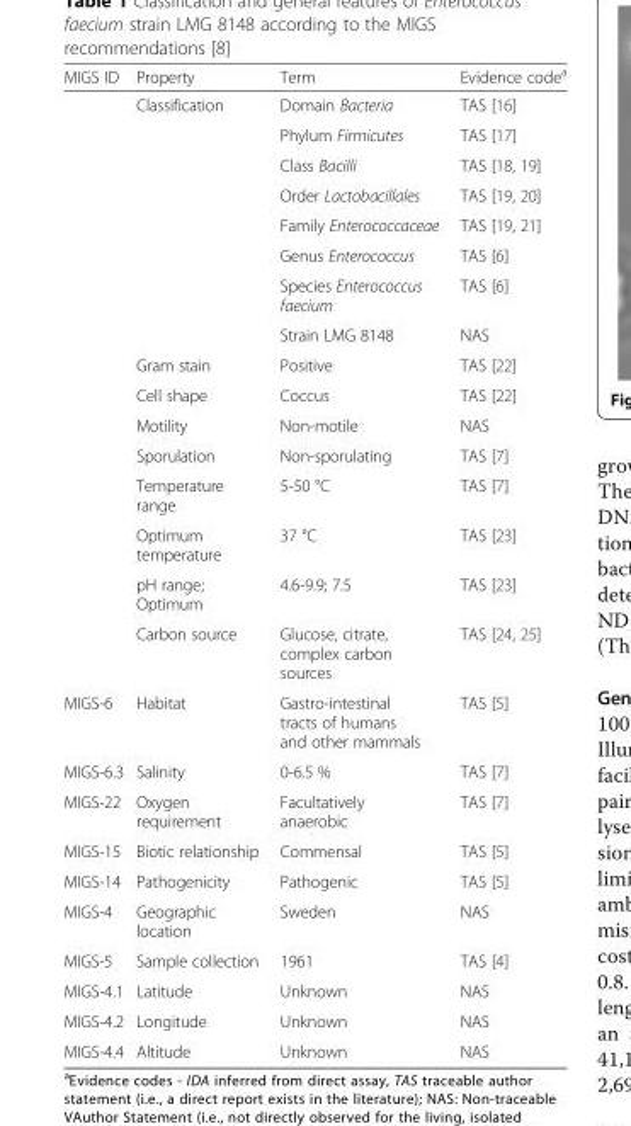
<table><thead><tr><td>MIGS ID</td><td>Property</td><td>Term</td><td>Evidence code<sup>a</sup></td></tr></thead><tbody><tr><td></td><td>Classification</td><td>Domain Bacteria</td><td>TAS [16]</td></tr><tr><td></td><td></td><td>Phylum Firmicutes</td><td>TAS [17]</td></tr><tr><td></td><td></td><td>Class Bacilli</td><td>TAS [18, 19]</td></tr><tr><td></td><td></td><td>Order Lactobacillales</td><td>TAS [19, 20]</td></tr><tr><td></td><td></td><td>Family Enterococcaceae</td><td>TAS [19, 21]</td></tr><tr><td></td><td></td><td>Genus Enterococcus</td><td>TAS [6]</td></tr><tr><td></td><td></td><td>Species Enterococcus faecium</td><td>TAS [6]</td></tr><tr><td></td><td></td><td>Strain LMG 8148</td><td>NAS</td></tr><tr><td></td><td>Gram stain</td><td>Positive</td><td>TAS [22]</td></tr><tr><td></td><td>Cell shape</td><td>Coccus</td><td>TAS [22]</td></tr><tr><td></td><td>Motility</td><td>Non-motile</td><td>NAS</td></tr><tr><td></td><td>Sporulation</td><td>Non-sporulating</td><td>TAS [7]</td></tr><tr><td></td><td>Temperature range</td><td>5-50 °C</td><td>TAS [7]</td></tr><tr><td></td><td>Optimum temperature</td><td>37 °C</td><td>TAS [23]</td></tr><tr><td></td><td>pH range; Optimum</td><td>4.6-9.9; 7.5</td><td>TAS [23]</td></tr><tr><td></td><td>Carbon source</td><td>Glucose, citrate, complex carbon sources</td><td>TAS [24, 25]</td></tr><tr><td>MIGS-6</td><td>Habitat</td><td>Gastro-intestinal tracts of humans and other mammals</td><td>TAS [5]</td></tr><tr><td>MIGS-6.3</td><td>Salinity</td><td>0-6.5 %</td><td>TAS [7]</td></tr><tr><td>MIGS-22</td><td>Oxygen requirement</td><td>Facultatively anaerobic</td><td>TAS [7]</td></tr><tr><td>MIGS-15</td><td>Biotic relationship</td><td>Commensal</td><td>TAS [5]</td></tr><tr><td>MIGS-14</td><td>Pathogenicity</td><td>Pathogenic</td><td>TAS [5]</td></tr><tr><td>MIGS-4</td><td>Geographic location</td><td>Sweden</td><td>NAS</td></tr><tr><td>MIGS-5</td><td>Sample collection</td><td>1961</td><td>TAS [4]</td></tr><tr><td>MIGS-4.1</td><td>Latitude</td><td>Unknown</td><td>NAS</td></tr><tr><td>MIGS-4.2</td><td>Longitude</td><td>Unknown</td><td>NAS</td></tr><tr><td>MIGS-4.4</td><td>Altitude</td><td>Unknown</td><td>NAS</td></tr></tbody></table>